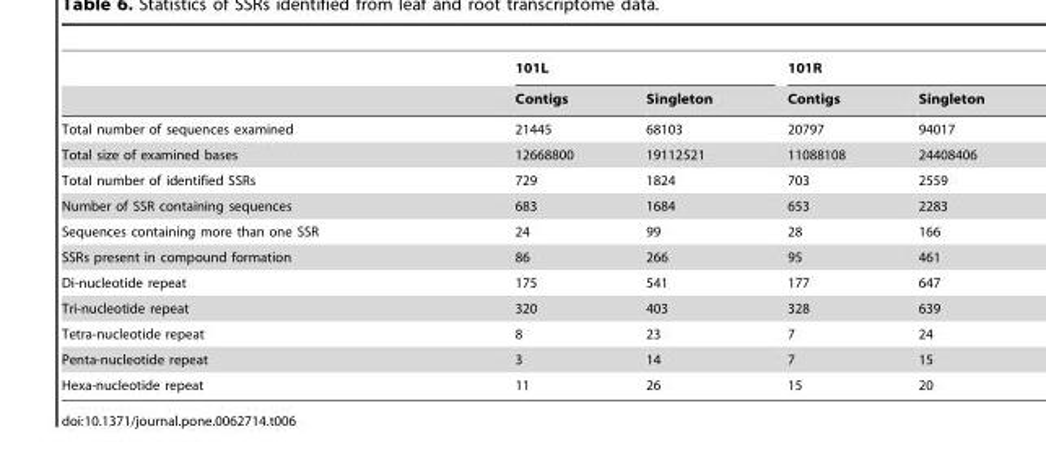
<table><thead><tr><td rowspan="2"></td><td colspan="2">101L</td><td colspan="2">101R</td></tr><tr><td>Contigs</td><td>Singleton</td><td>Contigs</td><td>Singleton</td></tr></thead><tbody><tr><td>Total number of sequences examined</td><td>21445</td><td>68103</td><td>20797</td><td>94017</td></tr><tr><td>Total size of examined bases</td><td>12668800</td><td>19112521</td><td>11088108</td><td>24408406</td></tr><tr><td>Total number of identified SSRs</td><td>729</td><td>1824</td><td>703</td><td>2559</td></tr><tr><td>Number of SSR containing sequences</td><td>683</td><td>1684</td><td>653</td><td>2283</td></tr><tr><td>Sequences containing more than one SSR</td><td>24</td><td>99</td><td>28</td><td>166</td></tr><tr><td>SSRs present in compound formation</td><td>86</td><td>266</td><td>95</td><td>461</td></tr><tr><td>Di-nucleotide repeat</td><td>175</td><td>541</td><td>177</td><td>647</td></tr><tr><td>Tri-nucleotide repeat</td><td>320</td><td>403</td><td>328</td><td>639</td></tr><tr><td>Tetra-nucleotide repeat</td><td>8</td><td>23</td><td>7</td><td>24</td></tr><tr><td>Penta-nucleotide repeat</td><td>3</td><td>14</td><td>7</td><td>15</td></tr><tr><td>Hexa-nucleotide repeat</td><td>11</td><td>26</td><td>15</td><td>20</td></tr></tbody></table>